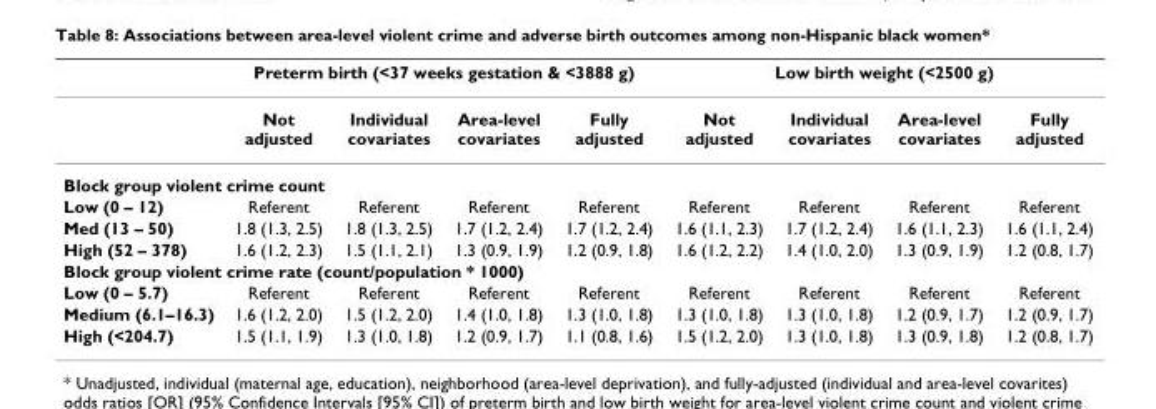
<table><thead><tr><td rowspan="2"></td><td colspan="4">Preterm birth (&lt;37 weeks gestation &amp; &lt;3888 g)</td><td colspan="4">Low birth weight (&lt;2500 g)</td></tr><tr><td>Not adjusted</td><td>Individual covariates</td><td>Area-level covariates</td><td>Fully adjusted</td><td>Not adjusted</td><td>Individual covariates</td><td>Area-level covariates</td><td>Fully adjusted</td></tr></thead><tbody><tr><td colspan="9">Block group violent crime count</td></tr><tr><td>Low (0 – 12)</td><td>Referent</td><td>Referent</td><td>Referent</td><td>Referent</td><td>Referent</td><td>Referent</td><td>Referent</td><td>Referent</td></tr><tr><td>Med (13 – 50)</td><td>1.8 (1.3, 2.5)</td><td>1.8 (1.3, 2.5)</td><td>1.7 (1.2, 2.4)</td><td>1.7 (1.2, 2.4)</td><td>1.6 (1.1, 2.3)</td><td>1.7 (1.2, 2.4)</td><td>1.6 (1.1, 2.3)</td><td>1.6 (1.1, 2.4)</td></tr><tr><td>High (52 – 378)</td><td>1.6 (1.2, 2.3)</td><td>1.5 (1.1, 2.1)</td><td>1.3 (0.9, 1.9)</td><td>1.2 (0.9, 1.8)</td><td>1.6 (1.2, 2.2)</td><td>1.4 (1.0, 2.0)</td><td>1.3 (0.9, 1.9)</td><td>1.2 (0.8, 1.7)</td></tr><tr><td colspan="9">Block group violent crime rate (count/population * 1000)</td></tr><tr><td>Low (0 – 5.7)</td><td>Referent</td><td>Referent</td><td>Referent</td><td>Referent</td><td>Referent</td><td>Referent</td><td>Referent</td><td>Referent</td></tr><tr><td>Medium (6.1–16.3)</td><td>1.6 (1.2, 2.0)</td><td>1.5 (1.2, 2.0)</td><td>1.4 (1.0, 1.8)</td><td>1.3 (1.0, 1.8)</td><td>1.3 (1.0, 1.8)</td><td>1.3 (1.0, 1.8)</td><td>1.2 (0.9, 1.7)</td><td>1.2 (0.9, 1.7)</td></tr><tr><td>High (&lt;204.7)</td><td>1.5 (1.1, 1.9)</td><td>1.3 (1.0, 1.8)</td><td>1.2 (0.9, 1.7)</td><td>1.1 (0.8, 1.6)</td><td>1.5 (1.2, 2.0)</td><td>1.3 (1.0, 1.8)</td><td>1.3 (0.9, 1.8)</td><td>1.2 (0.8, 1.7)</td></tr></tbody></table>